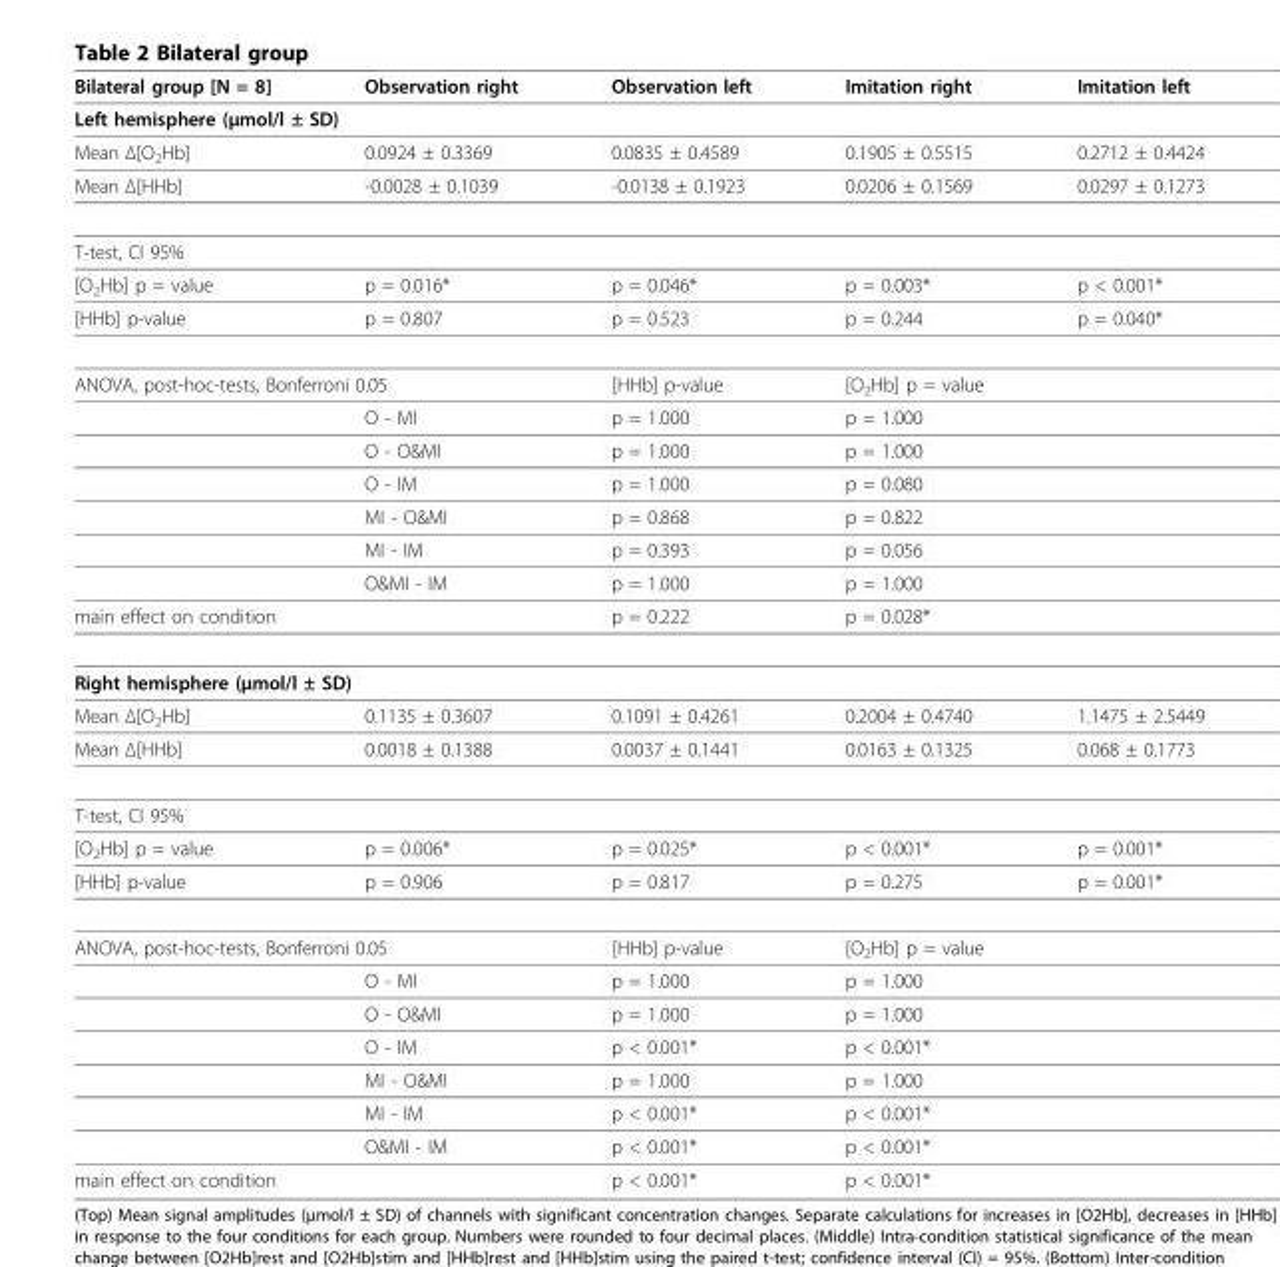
<table><thead><tr><td>Bilateral group [N = 8]</td><td>Observation right</td><td>Observation left</td><td>Imitation right</td><td>Imitation left</td></tr></thead><tbody><tr><td colspan="5">Left hemisphere (μmol/l ± SD)</td></tr><tr><td>Mean Δ[O2Hb]</td><td>0.0924 ± 0.3369</td><td>0.0835 ± 0.4589</td><td>0.1905 ± 0.5515</td><td>0.2712 ± 0.4424</td></tr><tr><td>Mean Δ[HHb]</td><td>-0.0028 ± 0.1039</td><td>-0.0138 ± 0.1923</td><td>0.0206 ± 0.1569</td><td>0.0297 ± 0.1273</td></tr><tr><td colspan="5">T-test, CI 95%</td></tr><tr><td>[O2Hb] p = value</td><td>p = 0.016*</td><td>p = 0.046*</td><td>p = 0.003*</td><td>p &lt; 0.001*</td></tr><tr><td>[HHb] p-value</td><td>p = 0.807</td><td>p = 0.523</td><td>p = 0.244</td><td>p = 0.040*</td></tr><tr><td colspan="2">ANOVA, post-hoc-tests, Bonferroni 0.05</td><td>[HHb] p-value</td><td>[O2Hb] p = value</td><td></td></tr><tr><td></td><td>O - MI</td><td>p = 1.000</td><td>p = 1.000</td><td></td></tr><tr><td></td><td>O - O&amp;MI</td><td>p = 1.000</td><td>p = 1.000</td><td></td></tr><tr><td></td><td>O - IM</td><td>p = 1.000</td><td>p = 0.080</td><td></td></tr><tr><td></td><td>MI - O&amp;MI</td><td>p = 0.868</td><td>p = 0.822</td><td></td></tr><tr><td></td><td>MI - IM</td><td>p = 0.393</td><td>p = 0.056</td><td></td></tr><tr><td></td><td>O&amp;MI - IM</td><td>p = 1.000</td><td>p = 1.000</td><td></td></tr><tr><td colspan="2">main effect on condition</td><td>p = 0.222</td><td>p = 0.028*</td><td></td></tr><tr><td colspan="5">Right hemisphere (μmol/l ± SD)</td></tr><tr><td>Mean Δ[O2Hb]</td><td>0.1135 ± 0.3607</td><td>0.1091 ± 0.4261</td><td>0.2004 ± 0.4740</td><td>1.1475 ± 2.5449</td></tr><tr><td>Mean Δ[HHb]</td><td>0.0018 ± 0.1388</td><td>0.0037 ± 0.1441</td><td>0.0163 ± 0.1325</td><td>0.068 ± 0.1773</td></tr><tr><td colspan="5">T-test, CI 95%</td></tr><tr><td>[O2Hb] p = value</td><td>p = 0.006*</td><td>p = 0.025*</td><td>p &lt; 0.001*</td><td>p = 0.001*</td></tr><tr><td>[HHb] p-value</td><td>p = 0.906</td><td>p = 0.817</td><td>p = 0.275</td><td>p = 0.001*</td></tr><tr><td colspan="2">ANOVA, post-hoc-tests, Bonferroni 0.05</td><td>[HHb] p-value</td><td>[O2Hb] p = value</td><td></td></tr><tr><td></td><td>O - MI</td><td>p = 1.000</td><td>p = 1.000</td><td></td></tr><tr><td></td><td>O - O&amp;MI</td><td>p = 1.000</td><td>p = 1.000</td><td></td></tr><tr><td></td><td>O - IM</td><td>p &lt; 0.001*</td><td>p &lt; 0.001*</td><td></td></tr><tr><td></td><td>MI - O&amp;MI</td><td>p = 1.000</td><td>p = 1.000</td><td></td></tr><tr><td></td><td>MI - IM</td><td>p &lt; 0.001*</td><td>p &lt; 0.001*</td><td></td></tr><tr><td></td><td>O&amp;MI - IM</td><td>p &lt; 0.001*</td><td>p &lt; 0.001*</td><td></td></tr><tr><td colspan="2">main effect on condition</td><td>p &lt; 0.001*</td><td>p &lt; 0.001*</td><td></td></tr></tbody></table>